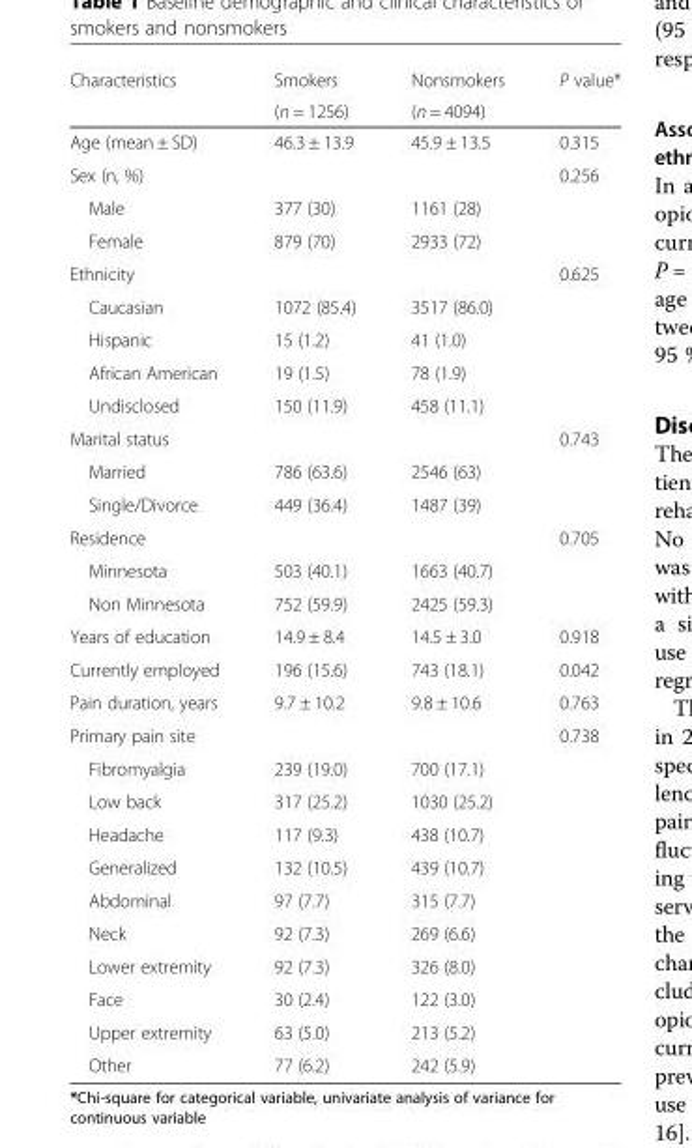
<table><thead><tr><td rowspan="2">Characteristics</td><td rowspan="2">Smokers (n = 1256)</td><td rowspan="2">Nonsmokers (n = 4094)</td><td rowspan="2">P value*</td></tr><tr></tr></thead><tbody><tr><td>Age (mean ± SD)</td><td>46.3 ± 13.9</td><td>45.9 ± 13.5</td><td>0.315</td></tr><tr><td>Sex (n, %)</td><td></td><td></td><td>0.256</td></tr><tr><td>Male</td><td>377 (30)</td><td>1161 (28)</td><td></td></tr><tr><td>Female</td><td>879 (70)</td><td>2933 (72)</td><td></td></tr><tr><td>Ethnicity</td><td></td><td></td><td>0.625</td></tr><tr><td>Caucasian</td><td>1072 (85.4)</td><td>3517 (86.0)</td><td></td></tr><tr><td>Hispanic</td><td>15 (1.2)</td><td>41 (1.0)</td><td></td></tr><tr><td>African American</td><td>19 (1.5)</td><td>78 (1.9)</td><td></td></tr><tr><td>Undisclosed</td><td>150 (11.9)</td><td>458 (11.1)</td><td></td></tr><tr><td>Marital status</td><td></td><td></td><td>0.743</td></tr><tr><td>Married</td><td>786 (63.6)</td><td>2546 (63)</td><td></td></tr><tr><td>Single/Divorce</td><td>449 (36.4)</td><td>1487 (39)</td><td></td></tr><tr><td>Residence</td><td></td><td></td><td>0.705</td></tr><tr><td>Minnesota</td><td>503 (40.1)</td><td>1663 (40.7)</td><td></td></tr><tr><td>Non Minnesota</td><td>752 (59.9)</td><td>2425 (59.3)</td><td></td></tr><tr><td>Years of education</td><td>14.9 ± 8.4</td><td>14.5 ± 3.0</td><td>0.918</td></tr><tr><td>Currently employed</td><td>196 (15.6)</td><td>743 (18.1)</td><td>0.042</td></tr><tr><td>Pain duration, years</td><td>9.7 ± 10.2</td><td>9.8 ± 10.6</td><td>0.763</td></tr><tr><td>Primary pain site</td><td></td><td></td><td>0.738</td></tr><tr><td>Fibromyalgia</td><td>239 (19.0)</td><td>700 (17.1)</td><td></td></tr><tr><td>Low back</td><td>317 (25.2)</td><td>1030 (25.2)</td><td></td></tr><tr><td>Headache</td><td>117 (9.3)</td><td>438 (10.7)</td><td></td></tr><tr><td>Generalized</td><td>132 (10.5)</td><td>439 (10.7)</td><td></td></tr><tr><td>Abdominal</td><td>97 (7.7)</td><td>315 (7.7)</td><td></td></tr><tr><td>Neck</td><td>92 (7.3)</td><td>269 (6.6)</td><td></td></tr><tr><td>Lower extremity</td><td>92 (7.3)</td><td>326 (8.0)</td><td></td></tr><tr><td>Face</td><td>30 (2.4)</td><td>122 (3.0)</td><td></td></tr><tr><td>Upper extremity</td><td>63 (5.0)</td><td>213 (5.2)</td><td></td></tr><tr><td>Other</td><td>77 (6.2)</td><td>242 (5.9)</td><td></td></tr></tbody></table>